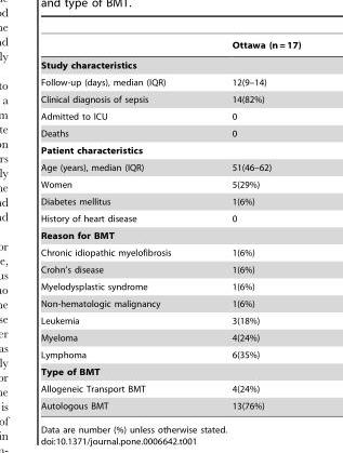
<table><thead><tr><td></td><td>Ottawa (n = 17)</td></tr></thead><tbody><tr><td colspan="2">Study characteristics</td></tr><tr><td>Follow-up (days), median (IQR)</td><td>12(9–14)</td></tr><tr><td>Clinical diagnosis of sepsis</td><td>14(82%)</td></tr><tr><td>Admitted to ICU</td><td>0</td></tr><tr><td>Deaths</td><td>0</td></tr><tr><td colspan="2">Patient characteristics</td></tr><tr><td>Age (years), median (IQR)</td><td>51(46–62)</td></tr><tr><td>Women</td><td>5(29%)</td></tr><tr><td>Diabetes mellitus</td><td>1(6%)</td></tr><tr><td>History of heart disease</td><td>0</td></tr><tr><td colspan="2">Reason for BMT</td></tr><tr><td>Chronic idiopathic myelofibrosis</td><td>1(6%)</td></tr><tr><td>Crohn’s disease</td><td>1(6%)</td></tr><tr><td>Myelodysplastic syndrome</td><td>1(6%)</td></tr><tr><td>Non-hematologic malignancy</td><td>1(6%)</td></tr><tr><td>Leukemia</td><td>3(18%)</td></tr><tr><td>Myeloma</td><td>4(24%)</td></tr><tr><td>Lymphoma</td><td>6(35%)</td></tr><tr><td colspan="2">Type of BMT</td></tr><tr><td>Allogeneic Transport BMT</td><td>4(24%)</td></tr><tr><td>Autologous BMT</td><td>13(76%)</td></tr></tbody></table>